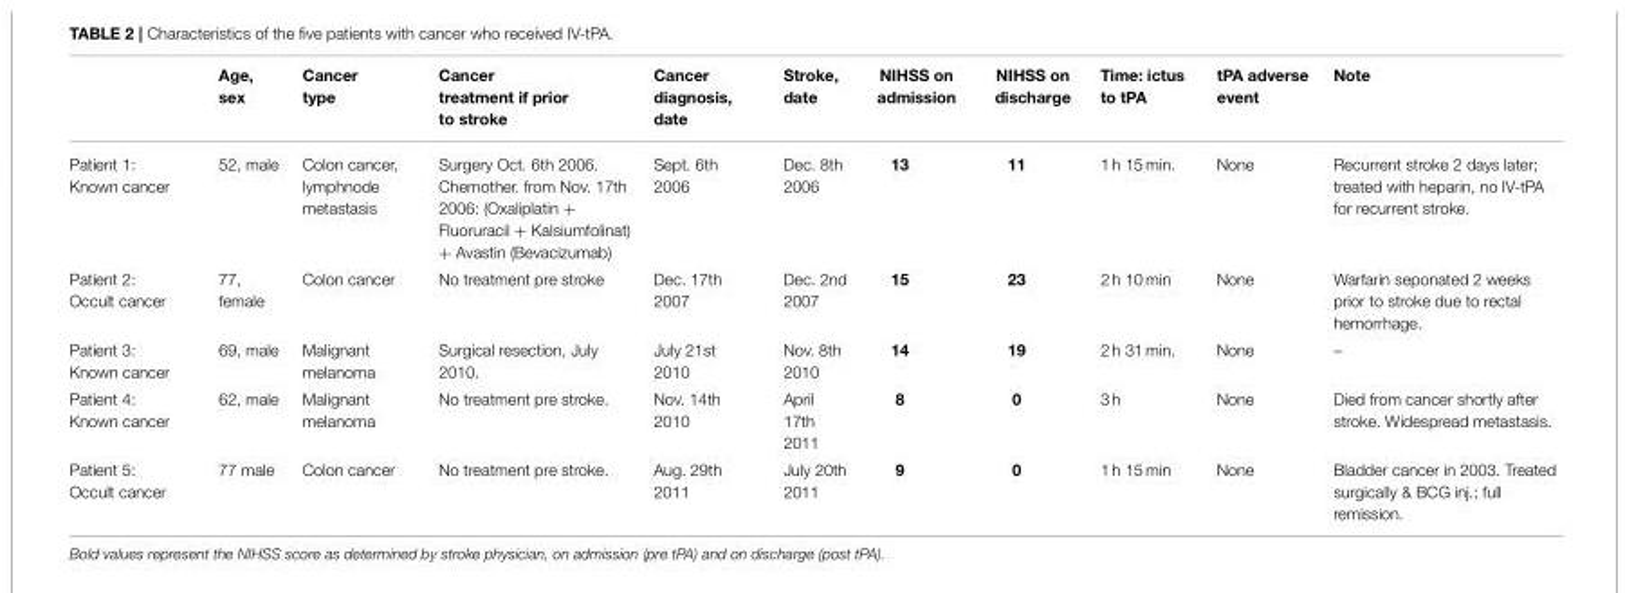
<table><thead><tr><td></td><td>Age, sex</td><td>Cancer type</td><td>Cancer treatment if prior to stroke</td><td>Cancer diagnosis, date</td><td>Stroke, date</td><td>NIHSS on admission</td><td>NIHSS on discharge</td><td>Time: ictus to tPA</td><td>tPA adverse event</td><td>Note</td></tr></thead><tbody><tr><td>Patient 1: Known cancer</td><td>52, male</td><td>Colon cancer, lymphnode metastasis</td><td>Surgery Oct. 6th 2006. Chemother. from Nov. 17th 2006: (Oxaliplatin + Fluoruracil + Kalsiumfolinat) + Avastin (Bevacizumab)</td><td>Sept. 6th 2006</td><td>Dec. 8th 2006</td><td>13</td><td>11</td><td>1 h 15 min.</td><td>None</td><td>Recurrent stroke 2 days later; treated with heparin, no IV-tPA for recurrent stroke.</td></tr><tr><td>Patient 2: Occult cancer</td><td>77, female</td><td>Colon cancer</td><td>No treatment pre stroke</td><td>Dec. 17th 2007</td><td>Dec. 2nd 2007</td><td>15</td><td>23</td><td>2 h 10 min</td><td>None</td><td>Warfarin seponated 2 weeks prior to stroke due to rectal hemorrhage.</td></tr><tr><td>Patient 3: Known cancer</td><td>69, male</td><td>Malignant melanoma</td><td>Surgical resection, July 2010.</td><td>July 21st 2010</td><td>Nov. 8th 2010</td><td>14</td><td>19</td><td>2 h 31 min.</td><td>None</td><td>–</td></tr><tr><td>Patient 4: Known cancer</td><td>62, male</td><td>Malignant melanoma</td><td>No treatment pre stroke.</td><td>Nov. 14th 2010</td><td>April 17th 2011</td><td>8</td><td>0</td><td>3 h</td><td>None</td><td>Died from cancer shortly after stroke. Widespread metastasis.</td></tr><tr><td>Patient 5: Occult cancer</td><td>77 male</td><td>Colon cancer</td><td>No treatment pre stroke.</td><td>Aug. 29th 2011</td><td>July 20th 2011</td><td>9</td><td>0</td><td>1 h 15 min</td><td>None</td><td>Bladder cancer in 2003. Treated surgically &amp; BCG inj.; full remission.</td></tr></tbody></table>